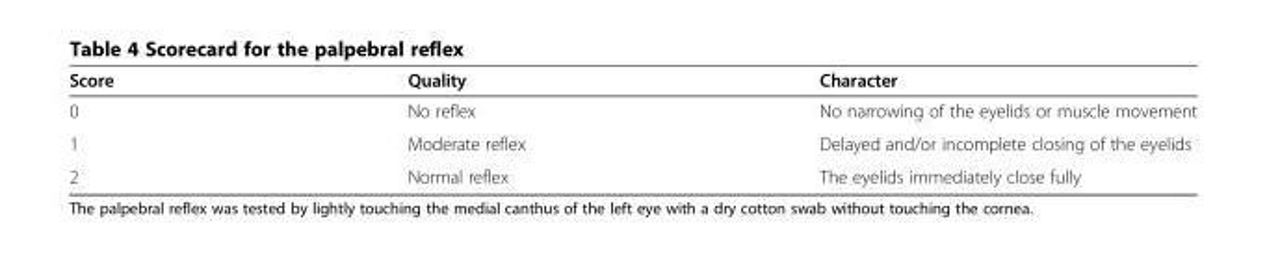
<table><thead><tr><td>Score</td><td>Quality</td><td>Character</td></tr></thead><tbody><tr><td>0</td><td>No reflex</td><td>No narrowing of the eyelids or muscle movement</td></tr><tr><td>1</td><td>Moderate reflex</td><td>Delayed and/or incomplete closing of the eyelids</td></tr><tr><td>2</td><td>Normal reflex</td><td>The eyelids immediately close fully</td></tr></tbody></table>